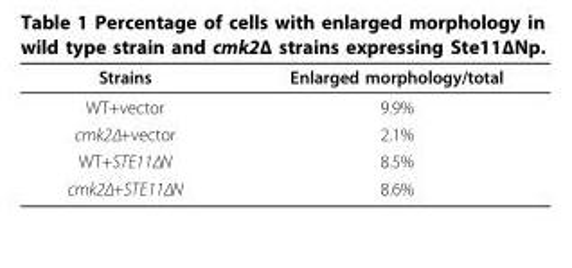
<table><thead><tr><td>Strains</td><td>Enlarged morphology/total</td></tr></thead><tbody><tr><td>WT+vector</td><td>9.9%</td></tr><tr><td>cmk2Δ+vector</td><td>2.1%</td></tr><tr><td>WT+STE11ΔN</td><td>8.5%</td></tr><tr><td>cmk2Δ+STE11ΔN</td><td>8.6%</td></tr></tbody></table>